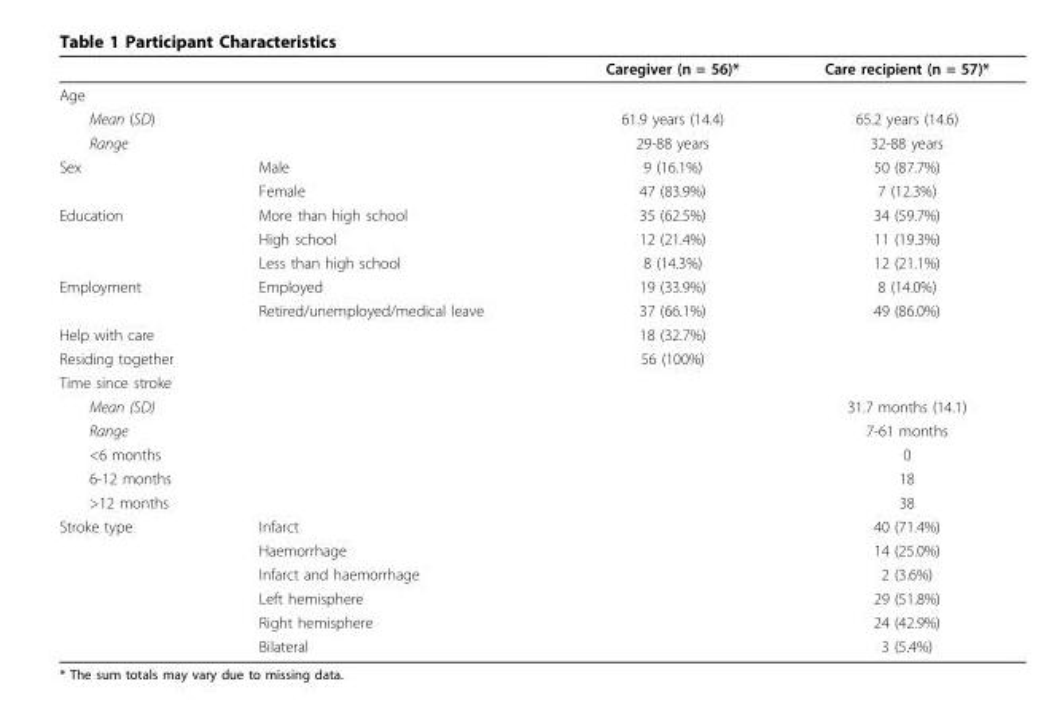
<table><thead><tr><td></td><td></td><td>Caregiver (n = 56)*</td><td>Care recipient (n = 57)*</td></tr></thead><tbody><tr><td colspan="4">Age</td></tr><tr><td>Mean (SD)</td><td></td><td>61.9 years (14.4)</td><td>65.2 years (14.6)</td></tr><tr><td>Range</td><td></td><td>29-88 years</td><td>32-88 years</td></tr><tr><td rowspan="2">Sex</td><td>Male</td><td>9 (16.1%)</td><td>50 (87.7%)</td></tr><tr><td>Female</td><td>47 (83.9%)</td><td>7 (12.3%)</td></tr><tr><td rowspan="3">Education</td><td>More than high school</td><td>35 (62.5%)</td><td>34 (59.7%)</td></tr><tr><td>High school</td><td>12 (21.4%)</td><td>11 (19.3%)</td></tr><tr><td>Less than high school</td><td>8 (14.3%)</td><td>12 (21.1%)</td></tr><tr><td rowspan="2">Employment</td><td>Employed</td><td>19 (33.9%)</td><td>8 (14.0%)</td></tr><tr><td>Retired/unemployed/medical leave</td><td>37 (66.1%)</td><td>49 (86.0%)</td></tr><tr><td>Help with care</td><td></td><td>18 (32.7%)</td><td></td></tr><tr><td>Residing together</td><td></td><td>56 (100%)</td><td></td></tr><tr><td colspan="4">Time since stroke</td></tr><tr><td>Mean (SD)</td><td></td><td></td><td>31.7 months (14.1)</td></tr><tr><td>Range</td><td></td><td></td><td>7-61 months</td></tr><tr><td>&lt;6 months</td><td></td><td></td><td>0</td></tr><tr><td>6-12 months</td><td></td><td></td><td>18</td></tr><tr><td>&gt;12 months</td><td></td><td></td><td>38</td></tr><tr><td rowspan="6">Stroke type</td><td>Infarct</td><td></td><td>40 (71.4%)</td></tr><tr><td>Haemorrhage</td><td></td><td>14 (25.0%)</td></tr><tr><td>Infarct and haemorrhage</td><td></td><td>2 (3.6%)</td></tr><tr><td>Left hemisphere</td><td></td><td>29 (51.8%)</td></tr><tr><td>Right hemisphere</td><td></td><td>24 (42.9%)</td></tr><tr><td>Bilateral</td><td></td><td>3 (5.4%)</td></tr></tbody></table>